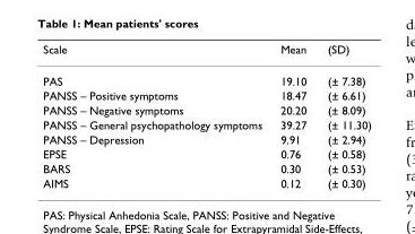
<table><thead><tr><td>Scale</td><td>Mean</td><td>(SD)</td></tr></thead><tbody><tr><td>PAS</td><td>19.10</td><td>(± 7.38)</td></tr><tr><td>PANSS – Positive symptoms</td><td>18.47</td><td>(± 6.61)</td></tr><tr><td>PANSS – Negative symptoms</td><td>20.20</td><td>(± 8.09)</td></tr><tr><td>PANSS – General psychopathology symptoms</td><td>39.27</td><td>(± 11.30)</td></tr><tr><td>PANSS – Depression</td><td>9.91</td><td>(± 2.94)</td></tr><tr><td>EPSE</td><td>0.76</td><td>(± 0.58)</td></tr><tr><td>BARS</td><td>0.30</td><td>(± 0.53)</td></tr><tr><td>AIMS</td><td>0.12</td><td>(± 0.30)</td></tr></tbody></table>